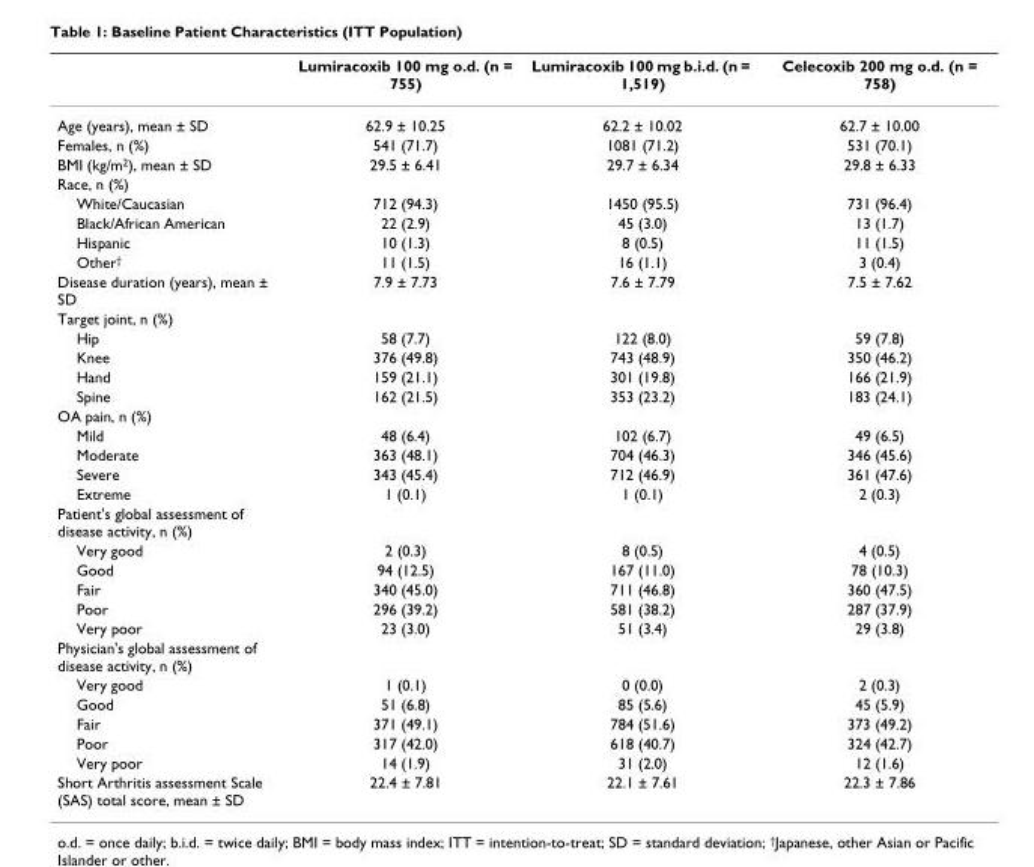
<table><thead><tr><td></td><td>Lumiracoxib 100 mg o.d. (n = 755)</td><td>Lumiracoxib 100 mg b.i.d. (n = 1,519)</td><td>Celecoxib 200 mg o.d. (n = 758)</td></tr></thead><tbody><tr><td>Age (years), mean ± SD</td><td>62.9 ± 10.25</td><td>62.2 ± 10.02</td><td>62.7 ± 10.00</td></tr><tr><td>Females, n (%)</td><td>541 (71.7)</td><td>1081 (71.2)</td><td>531 (70.1)</td></tr><tr><td>BMI (kg/m<sup>2</sup>), mean ± SD</td><td>29.5 ± 6.41</td><td>29.7 ± 6.34</td><td>29.8 ± 6.33</td></tr><tr><td colspan="4">Race, n (%)</td></tr><tr><td>White/Caucasian</td><td>712 (94.3)</td><td>1450 (95.5)</td><td>731 (96.4)</td></tr><tr><td>Black/African American</td><td>22 (2.9)</td><td>45 (3.0)</td><td>13 (1.7)</td></tr><tr><td>Hispanic</td><td>10 (1.3)</td><td>8 (0.5)</td><td>11 (1.5)</td></tr><tr><td>Other<sup>†</sup></td><td>11 (1.5)</td><td>16 (1.1)</td><td>3 (0.4)</td></tr><tr><td>Disease duration (years), mean ± SD</td><td>7.9 ± 7.73</td><td>7.6 ± 7.79</td><td>7.5 ± 7.62</td></tr><tr><td colspan="4">Target joint, n (%)</td></tr><tr><td>Hip</td><td>58 (7.7)</td><td>122 (8.0)</td><td>59 (7.8)</td></tr><tr><td>Knee</td><td>376 (49.8)</td><td>743 (48.9)</td><td>350 (46.2)</td></tr><tr><td>Hand</td><td>159 (21.1)</td><td>301 (19.8)</td><td>166 (21.9)</td></tr><tr><td>Spine</td><td>162 (21.5)</td><td>353 (23.2)</td><td>183 (24.1)</td></tr><tr><td colspan="4">OA pain, n (%)</td></tr><tr><td>Mild</td><td>48 (6.4)</td><td>102 (6.7)</td><td>49 (6.5)</td></tr><tr><td>Moderate</td><td>363 (48.1)</td><td>704 (46.3)</td><td>346 (45.6)</td></tr><tr><td>Severe</td><td>343 (45.4)</td><td>712 (46.9)</td><td>361 (47.6)</td></tr><tr><td>Extreme</td><td>1 (0.1)</td><td>1 (0.1)</td><td>2 (0.3)</td></tr><tr><td colspan="4">Patient&#x27;s global assessment of disease activity, n (%)</td></tr><tr><td>Very good</td><td>2 (0.3)</td><td>8 (0.5)</td><td>4 (0.5)</td></tr><tr><td>Good</td><td>94 (12.5)</td><td>167 (11.0)</td><td>78 (10.3)</td></tr><tr><td>Fair</td><td>340 (45.0)</td><td>711 (46.8)</td><td>360 (47.5)</td></tr><tr><td>Poor</td><td>296 (39.2)</td><td>581 (38.2)</td><td>287 (37.9)</td></tr><tr><td>Very poor</td><td>23 (3.0)</td><td>51 (3.4)</td><td>29 (3.8)</td></tr><tr><td colspan="4">Physician&#x27;s global assessment of disease activity, n (%)</td></tr><tr><td>Very good</td><td>1 (0.1)</td><td>0 (0.0)</td><td>2 (0.3)</td></tr><tr><td>Good</td><td>51 (6.8)</td><td>85 (5.6)</td><td>45 (5.9)</td></tr><tr><td>Fair</td><td>371 (49.1)</td><td>784 (51.6)</td><td>373 (49.2)</td></tr><tr><td>Poor</td><td>317 (42.0)</td><td>618 (40.7)</td><td>324 (42.7)</td></tr><tr><td>Very poor</td><td>14 (1.9)</td><td>31 (2.0)</td><td>12 (1.6)</td></tr><tr><td>Short Arthritis assessment Scale (SAS) total score, mean ± SD</td><td>22.4 ± 7.81</td><td>22.1 ± 7.61</td><td>22.3 ± 7.86</td></tr></tbody></table>